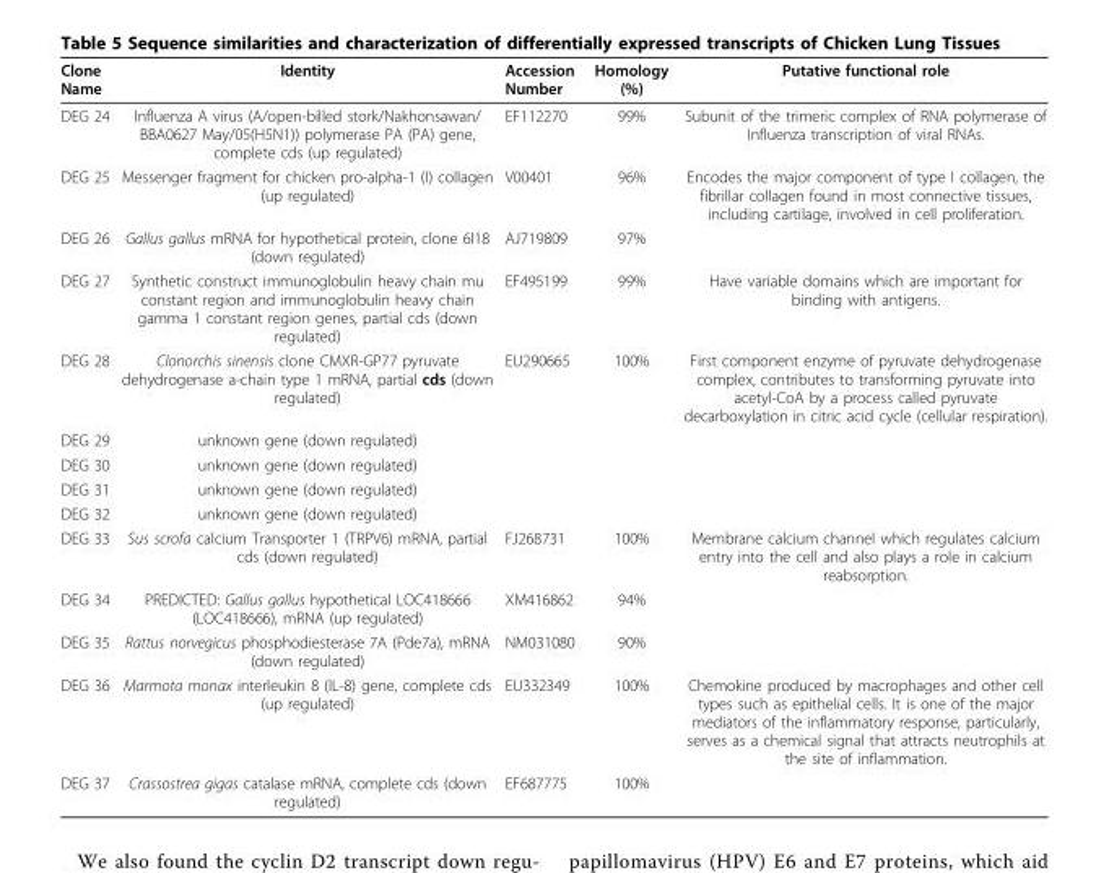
<table><thead><tr><td>Clone Name</td><td>Identity</td><td>Accession Number</td><td>Homology (%)</td><td>Putative functional role</td></tr></thead><tbody><tr><td>DEG 24</td><td>Influenza A virus (A/open-billed stork/Nakhonsawan/ BBA0627 May/05(H5N1)) polymerase PA (PA) gene, complete cds (up regulated)</td><td>EF112270</td><td>99%</td><td>Subunit of the trimeric complex of RNA polymerase of Influenza transcription of viral RNAs.</td></tr><tr><td>DEG 25</td><td>Messenger fragment for chicken pro-alpha-1 (I) collagen (up regulated)</td><td>V00401</td><td>96%</td><td>Encodes the major component of type I collagen, the fibrillar collagen found in most connective tissues, including cartilage, involved in cell proliferation.</td></tr><tr><td>DEG 26</td><td>Gallus gallus mRNA for hypothetical protein, clone 6l18 (down regulated)</td><td>AJ719809</td><td>97%</td><td></td></tr><tr><td>DEG 27</td><td>Synthetic construct immunoglobulin heavy chain mu constant region and immunoglobulin heavy chain gamma 1 constant region genes, partial cds (down regulated)</td><td>EF495199</td><td>99%</td><td>Have variable domains which are important for binding with antigens.</td></tr><tr><td>DEG 28</td><td>Clonorchis sinensis clone CMXR-GP77 pyruvate dehydrogenase a-chain type 1 mRNA, partial cds (down regulated)</td><td>EU290665</td><td>100%</td><td>First component enzyme of pyruvate dehydrogenase complex, contributes to transforming pyruvate into acetyl-CoA by a process called pyruvate decarboxylation in citric acid cycle (cellular respiration).</td></tr><tr><td>DEG 29</td><td>unknown gene (down regulated)</td><td></td><td></td><td></td></tr><tr><td>DEG 30</td><td>unknown gene (down regulated)</td><td></td><td></td><td></td></tr><tr><td>DEG 31</td><td>unknown gene (down regulated)</td><td></td><td></td><td></td></tr><tr><td>DEG 32</td><td>unknown gene (down regulated)</td><td></td><td></td><td></td></tr><tr><td>DEG 33</td><td>Sus scrofa calcium Transporter 1 (TRPV6) mRNA, partial cds (down regulated)</td><td>FJ268731</td><td>100%</td><td>Membrane calcium channel which regulates calcium entry into the cell and also plays a role in calcium reabsorption.</td></tr><tr><td>DEG 34</td><td>PREDICTED: Gallus gallus hypothetical LOC418666 (LOC418666), mRNA (up regulated)</td><td>XM416862</td><td>94%</td><td></td></tr><tr><td>DEG 35</td><td>Rattus norvegicus phosphodiesterase 7A (Pde7a), mRNA (down regulated)</td><td>NM031080</td><td>90%</td><td></td></tr><tr><td>DEG 36</td><td>Marmota monax interleukin 8 (IL-8) gene, complete cds (up regulated)</td><td>EU332349</td><td>100%</td><td>Chemokine produced by macrophages and other cell types such as epithelial cells. It is one of the major mediators of the inflammatory response, particularly, serves as a chemical signal that attracts neutrophils at the site of inflammation.</td></tr><tr><td>DEG 37</td><td>Crassostrea gigas catalase mRNA, complete cds (down regulated)</td><td>EF687775</td><td>100%</td><td></td></tr></tbody></table>